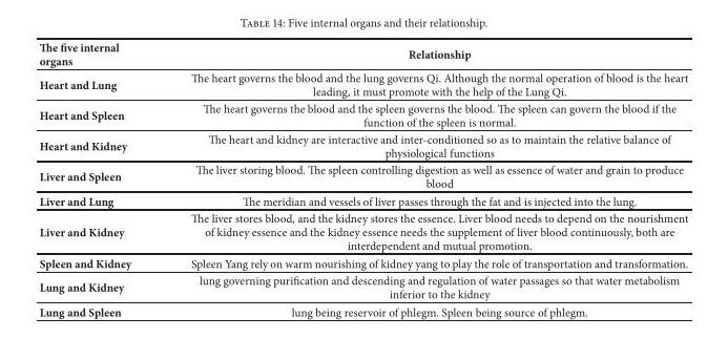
<table><thead><tr><td>Te five internal organs</td><td>Relationship</td></tr></thead><tbody><tr><td>Heart and Lung</td><td>The heart governs the blood and the lung governs Qi. Although the normal operation of blood is the heart leading, it must promote with the help of the Lung Qi.</td></tr><tr><td>Heart and Spleen</td><td>The heart governs the blood and the spleen governs the blood. The spleen can govern the blood if the function of the spleen is normal.</td></tr><tr><td>Heart and Kidney</td><td>The heart and kidney are interactive and inter-conditioned so as to maintain the relative balance of physiological functions</td></tr><tr><td>Liver and Spleen</td><td>The liver storing blood. The spleen controlling digestion as well as essence of water and grain to produce blood</td></tr><tr><td>Liver and Lung</td><td>The meridian and vessels of liver passes through the fat and is injected into the lung.</td></tr><tr><td>Liver and Kidney</td><td>The liver stores blood, and the kidney stores the essence. Liver blood needs to depend on the nourishment of kidney essence and the kidney essence needs the supplement of liver blood continuously, both are interdependent and mutual promotion.</td></tr><tr><td>Spleen and Kidney</td><td>Spleen Yang rely on warm nourishing of kidney yang to play the role of transportation and transformation.</td></tr><tr><td>Lung and Kidney</td><td>lung governing purification and descending and regulation of water passages so that water metabolism inferior to the kidney</td></tr><tr><td>Lung and Spleen</td><td>lung being reservoir of phlegm. Spleen being source of phlegm.</td></tr></tbody></table>